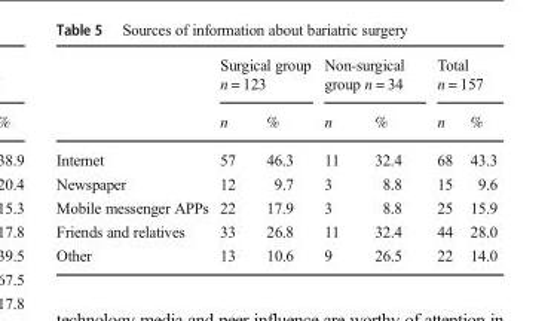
<table><thead><tr><td rowspan="2"></td><td colspan="2">Surgical group n = 123</td><td colspan="2">Non-surgical group n = 34</td><td colspan="2">Total n = 157</td></tr><tr><td>n</td><td>%</td><td>n</td><td>%</td><td>n</td><td>%</td></tr></thead><tbody><tr><td>Internet</td><td>57</td><td>46.3</td><td>11</td><td>32.4</td><td>68</td><td>43.3</td></tr><tr><td>Newspaper</td><td>12</td><td>9.7</td><td>3</td><td>8.8</td><td>15</td><td>9.6</td></tr><tr><td>Mobile messenger APPs</td><td>22</td><td>17.9</td><td>3</td><td>8.8</td><td>25</td><td>15.9</td></tr><tr><td>Friends and relatives</td><td>33</td><td>26.8</td><td>11</td><td>32.4</td><td>44</td><td>28.0</td></tr><tr><td>Other</td><td>13</td><td>10.6</td><td>9</td><td>26.5</td><td>22</td><td>14.0</td></tr></tbody></table>